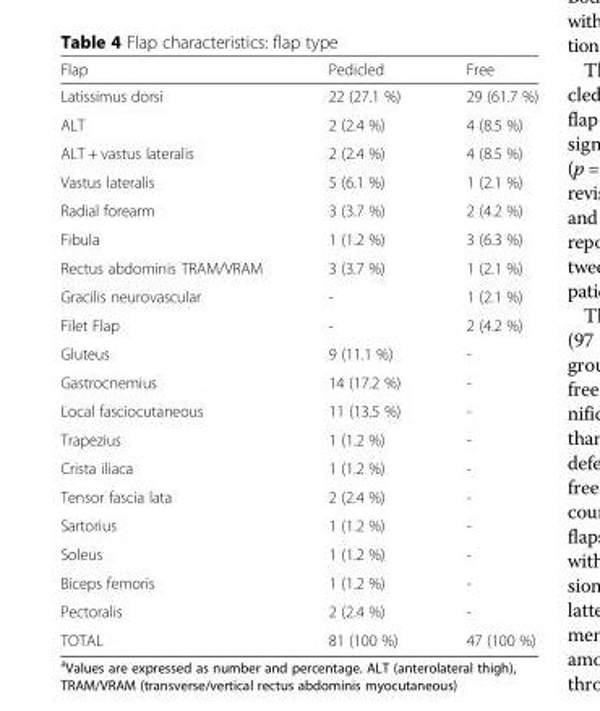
<table><thead><tr><td>Flap</td><td>Pedicled</td><td>Free</td></tr></thead><tbody><tr><td>Latissimus dorsi</td><td>22 (27.1 %)</td><td>29 (61.7 %)</td></tr><tr><td>ALT</td><td>2 (2.4 %)</td><td>4 (8.5 %)</td></tr><tr><td>ALT + vastus lateralis</td><td>2 (2.4 %)</td><td>4 (8.5 %)</td></tr><tr><td>Vastus lateralis</td><td>5 (6.1 %)</td><td>1 (2.1 %)</td></tr><tr><td>Radial forearm</td><td>3 (3.7 %)</td><td>2 (4.2 %)</td></tr><tr><td>Fibula</td><td>1 (1.2 %)</td><td>3 (6.3 %)</td></tr><tr><td>Rectus abdominis TRAM/VRAM</td><td>3 (3.7 %)</td><td>1 (2.1 %)</td></tr><tr><td>Gracilis neurovascular</td><td>-</td><td>1 (2.1 %)</td></tr><tr><td>Filet Flap</td><td>-</td><td>2 (4.2 %)</td></tr><tr><td>Gluteus</td><td>9 (11.1 %)</td><td>-</td></tr><tr><td>Gastrocnemius</td><td>14 (17.2 %)</td><td>-</td></tr><tr><td>Local fasciocutaneous</td><td>11 (13.5 %)</td><td>-</td></tr><tr><td>Trapezius</td><td>1 (1.2 %)</td><td>-</td></tr><tr><td>Crista iliaca</td><td>1 (1.2 %)</td><td>-</td></tr><tr><td>Tensor fascia lata</td><td>2 (2.4 %)</td><td>-</td></tr><tr><td>Sartorius</td><td>1 (1.2 %)</td><td>-</td></tr><tr><td>Soleus</td><td>1 (1.2 %)</td><td>-</td></tr><tr><td>Biceps femoris</td><td>1 (1.2 %)</td><td>-</td></tr><tr><td>Pectoralis</td><td>2 (2.4 %)</td><td>-</td></tr><tr><td>TOTAL</td><td>81 (100 %)</td><td>47 (100 %)</td></tr></tbody></table>